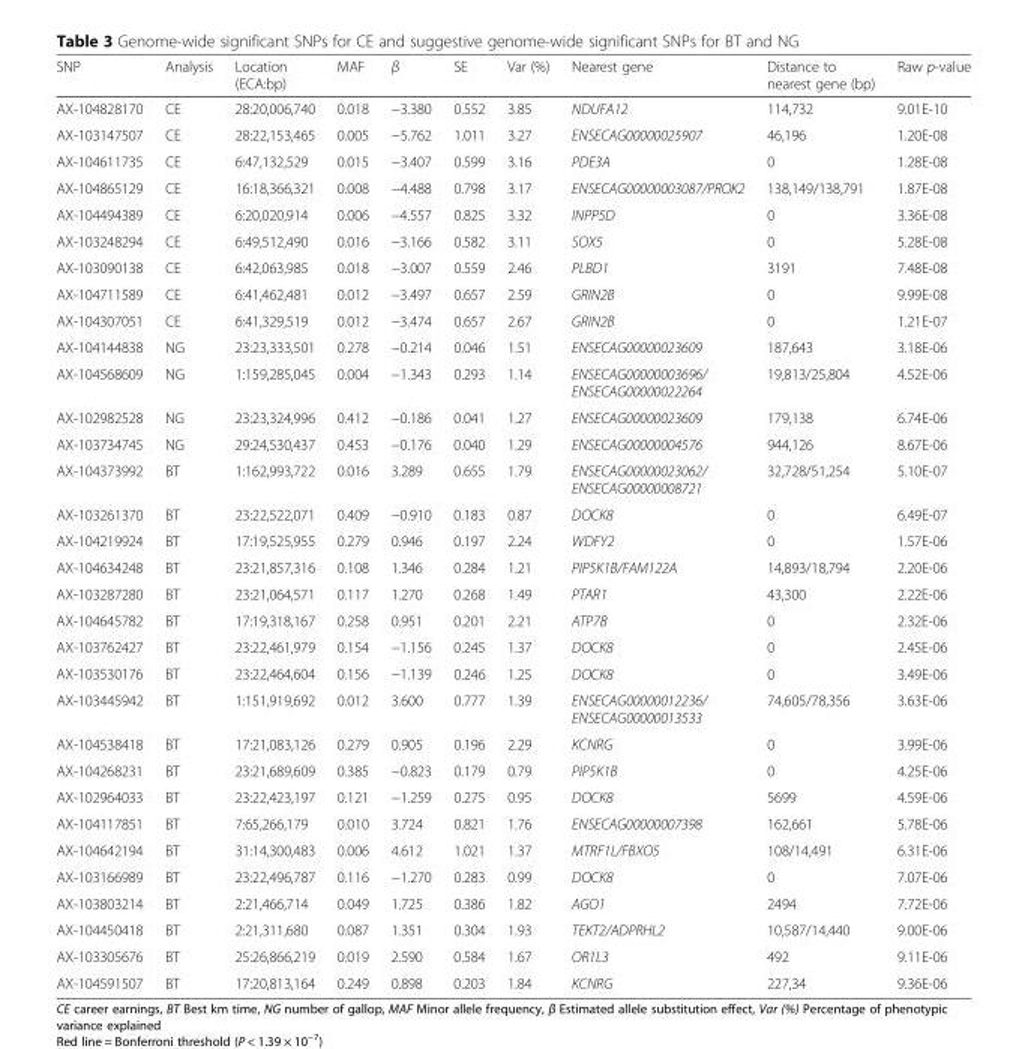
<table><thead><tr><td>SNP</td><td>Analysis</td><td>Location (ECA:bp)</td><td>MAF</td><td>β</td><td>SE</td><td>Var (%)</td><td>Nearest gene</td><td>Distance to nearest gene (bp)</td><td>Raw p-value</td></tr></thead><tbody><tr><td>AX-104828170</td><td>CE</td><td>28:20,006,740</td><td>0.018</td><td>−3.380</td><td>0.552</td><td>3.85</td><td>NDUFA12</td><td>114,732</td><td>9.01E-10</td></tr><tr><td>AX-103147507</td><td>CE</td><td>28:22,153,465</td><td>0.005</td><td>−5.762</td><td>1.011</td><td>3.27</td><td>ENSECAG00000025907</td><td>46,196</td><td>1.20E-08</td></tr><tr><td>AX-104611735</td><td>CE</td><td>6:47,132,529</td><td>0.015</td><td>−3.407</td><td>0.599</td><td>3.16</td><td>PDE3A</td><td>0</td><td>1.28E-08</td></tr><tr><td>AX-104865129</td><td>CE</td><td>16:18,366,321</td><td>0.008</td><td>−4.488</td><td>0.798</td><td>3.17</td><td>ENSECAG00000003087/PROK2</td><td>138,149/138,791</td><td>1.87E-08</td></tr><tr><td>AX-104494389</td><td>CE</td><td>6:20,020,914</td><td>0.006</td><td>−4.557</td><td>0.825</td><td>3.32</td><td>INPP5D</td><td>0</td><td>3.36E-08</td></tr><tr><td>AX-103248294</td><td>CE</td><td>6:49,512,490</td><td>0.016</td><td>−3.166</td><td>0.582</td><td>3.11</td><td>SOX5</td><td>0</td><td>5.28E-08</td></tr><tr><td>AX-103090138</td><td>CE</td><td>6:42,063,985</td><td>0.018</td><td>−3.007</td><td>0.559</td><td>2.46</td><td>PLBD1</td><td>3191</td><td>7.48E-08</td></tr><tr><td>AX-104711589</td><td>CE</td><td>6:41,462,481</td><td>0.012</td><td>−3.497</td><td>0.657</td><td>2.59</td><td>GRIN2B</td><td>0</td><td>9.99E-08</td></tr><tr><td>AX-104307051</td><td>CE</td><td>6:41,329,519</td><td>0.012</td><td>−3.474</td><td>0.657</td><td>2.67</td><td>GRIN2B</td><td>0</td><td>1.21E-07</td></tr><tr><td>AX-104144838</td><td>NG</td><td>23:23,333,501</td><td>0.278</td><td>−0.214</td><td>0.046</td><td>1.51</td><td>ENSECAG00000023609</td><td>187,643</td><td>3.18E-06</td></tr><tr><td>AX-104568609</td><td>NG</td><td>1:159,285,045</td><td>0.004</td><td>−1.343</td><td>0.293</td><td>1.14</td><td>ENSECAG00000003696/ ENSECAG00000022264</td><td>19,813/25,804</td><td>4.52E-06</td></tr><tr><td>AX-102982528</td><td>NG</td><td>23:23,324,996</td><td>0.412</td><td>−0.186</td><td>0.041</td><td>1.27</td><td>ENSECAG00000023609</td><td>179,138</td><td>6.74E-06</td></tr><tr><td>AX-103734745</td><td>NG</td><td>29:24,530,437</td><td>0.453</td><td>−0.176</td><td>0.040</td><td>1.29</td><td>ENSECAG00000004576</td><td>944,126</td><td>8.67E-06</td></tr><tr><td>AX-104373992</td><td>BT</td><td>1:162,993,722</td><td>0.016</td><td>3.289</td><td>0.655</td><td>1.79</td><td>ENSECAG00000023062/ ENSECAG00000008721</td><td>32,728/51,254</td><td>5.10E-07</td></tr><tr><td>AX-103261370</td><td>BT</td><td>23:22,522,071</td><td>0.409</td><td>−0.910</td><td>0.183</td><td>0.87</td><td>DOCK8</td><td>0</td><td>6.49E-07</td></tr><tr><td>AX-104219924</td><td>BT</td><td>17:19,525,955</td><td>0.279</td><td>0.946</td><td>0.197</td><td>2.24</td><td>WDFY2</td><td>0</td><td>1.57E-06</td></tr><tr><td>AX-104634248</td><td>BT</td><td>23:21,857,316</td><td>0.108</td><td>1.346</td><td>0.284</td><td>1.21</td><td>PIP5K1B/FAM122A</td><td>14,893/18,794</td><td>2.20E-06</td></tr><tr><td>AX-103287280</td><td>BT</td><td>23:21,064,571</td><td>0.117</td><td>1.270</td><td>0.268</td><td>1.49</td><td>PTAR1</td><td>43,300</td><td>2.22E-06</td></tr><tr><td>AX-104645782</td><td>BT</td><td>17:19,318,167</td><td>0.258</td><td>0.951</td><td>0.201</td><td>2.21</td><td>ATP7B</td><td>0</td><td>2.32E-06</td></tr><tr><td>AX-103762427</td><td>BT</td><td>23:22,461,979</td><td>0.154</td><td>−1.156</td><td>0.245</td><td>1.37</td><td>DOCK8</td><td>0</td><td>2.45E-06</td></tr><tr><td>AX-103530176</td><td>BT</td><td>23:22,464,604</td><td>0.156</td><td>−1.139</td><td>0.246</td><td>1.25</td><td>DOCK8</td><td>0</td><td>3.49E-06</td></tr><tr><td>AX-103445942</td><td>BT</td><td>1:151,919,692</td><td>0.012</td><td>3.600</td><td>0.777</td><td>1.39</td><td>ENSECAG00000012236/ ENSECAG00000013533</td><td>74,605/78,356</td><td>3.63E-06</td></tr><tr><td>AX-104538418</td><td>BT</td><td>17:21,083,126</td><td>0.279</td><td>0.905</td><td>0.196</td><td>2.29</td><td>KCNRG</td><td>0</td><td>3.99E-06</td></tr><tr><td>AX-104268231</td><td>BT</td><td>23:21,689,609</td><td>0.385</td><td>−0.823</td><td>0.179</td><td>0.79</td><td>PIP5K1B</td><td>0</td><td>4.25E-06</td></tr><tr><td>AX-102964033</td><td>BT</td><td>23:22,423,197</td><td>0.121</td><td>−1.259</td><td>0.275</td><td>0.95</td><td>DOCK8</td><td>5699</td><td>4.59E-06</td></tr><tr><td>AX-104117851</td><td>BT</td><td>7:65,266,179</td><td>0.010</td><td>3.724</td><td>0.821</td><td>1.76</td><td>ENSECAG00000007398</td><td>162,661</td><td>5.78E-06</td></tr><tr><td>AX-104642194</td><td>BT</td><td>31:14,300,483</td><td>0.006</td><td>4.612</td><td>1.021</td><td>1.37</td><td>MTRF1L/FBXO5</td><td>108/14,491</td><td>6.31E-06</td></tr><tr><td>AX-103166989</td><td>BT</td><td>23:22,496,787</td><td>0.116</td><td>−1.270</td><td>0.283</td><td>0.99</td><td>DOCK8</td><td>0</td><td>7.07E-06</td></tr><tr><td>AX-103803214</td><td>BT</td><td>2:21,466,714</td><td>0.049</td><td>1.725</td><td>0.386</td><td>1.82</td><td>AGO1</td><td>2494</td><td>7.72E-06</td></tr><tr><td>AX-104450418</td><td>BT</td><td>2:21,311,680</td><td>0.087</td><td>1.351</td><td>0.304</td><td>1.93</td><td>TEKT2/ADPRHL2</td><td>10,587/14,440</td><td>9.00E-06</td></tr><tr><td>AX-103305676</td><td>BT</td><td>25:26,866,219</td><td>0.019</td><td>2.590</td><td>0.584</td><td>1.67</td><td>OR1L3</td><td>492</td><td>9.11E-06</td></tr><tr><td>AX-104591507</td><td>BT</td><td>17:20,813,164</td><td>0.249</td><td>0.898</td><td>0.203</td><td>1.84</td><td>KCNRG</td><td>227,34</td><td>9.36E-06</td></tr></tbody></table>